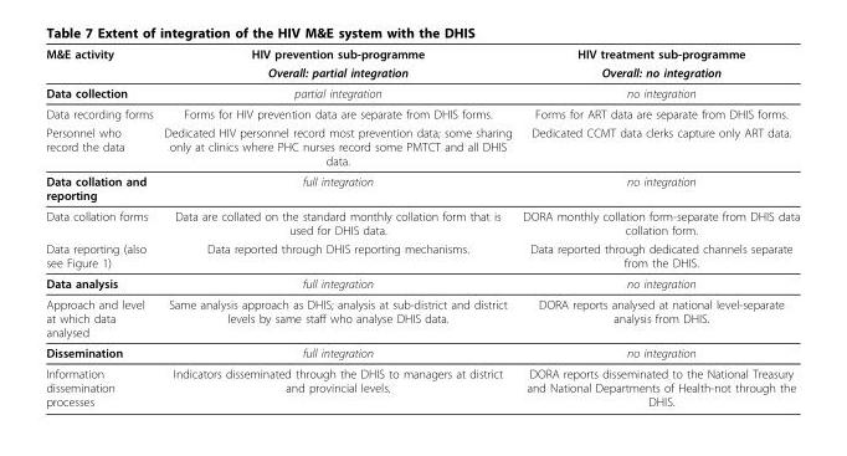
<table><thead><tr><td rowspan="2">M&amp;E activity</td><td rowspan="2">HIV prevention sub-programme Overall: partial integration</td><td rowspan="2">HIV treatment sub-programme Overall: no integration</td></tr><tr></tr></thead><tbody><tr><td>Data collection</td><td>partial integration</td><td>no integration</td></tr><tr><td>Data recording forms</td><td>Forms for HIV prevention data are separate from DHIS forms.</td><td>Forms for ART data are separate from DHIS forms.</td></tr><tr><td>Personnel who record the data</td><td>Dedicated HIV personnel record most prevention data; some sharing only at clinics where PHC nurses record some PMTCT and all DHIS data.</td><td>Dedicated CCMT data clerks capture only ART data.</td></tr><tr><td>Data collation and reporting</td><td>full integration</td><td>no integration</td></tr><tr><td>Data collation forms</td><td>Data are collated on the standard monthly collation form that is used for DHIS data.</td><td>DORA monthly collation form-separate from DHIS data collation form.</td></tr><tr><td>Data reporting (also see Figure 1)</td><td>Data reported through DHIS reporting mechanisms.</td><td>Data reported through dedicated channels separate from the DHIS.</td></tr><tr><td>Data analysis</td><td>full integration</td><td>no integration</td></tr><tr><td>Approach and level at which data analysed</td><td>Same analysis approach as DHIS; analysis at sub-district and district levels by same staff who analyse DHIS data.</td><td>DORA reports analysed at national level-separate analysis from DHIS.</td></tr><tr><td>Dissemination</td><td>full integration</td><td>no integration</td></tr><tr><td>Information dissemination processes</td><td>Indicators disseminated through the DHIS to managers at district and provincial levels.</td><td>DORA reports disseminated to the National Treasury and National Departments of Health-not through the DHIS.</td></tr></tbody></table>